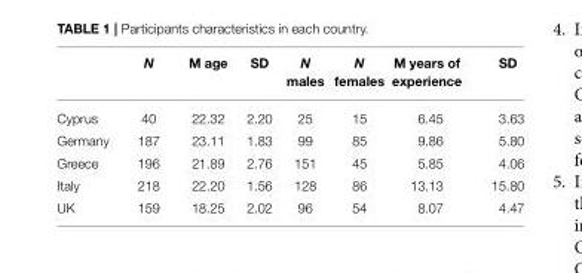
<table><thead><tr><td></td><td>N</td><td>M age</td><td>SD</td><td>N males</td><td>N females</td><td>M years of experience</td><td>SD</td></tr></thead><tbody><tr><td>Cyprus</td><td>40</td><td>22.32</td><td>2.20</td><td>25</td><td>15</td><td>6.45</td><td>3.63</td></tr><tr><td>Germany</td><td>187</td><td>23.11</td><td>1.83</td><td>99</td><td>85</td><td>9.86</td><td>5.80</td></tr><tr><td>Greece</td><td>196</td><td>21.89</td><td>2.76</td><td>151</td><td>45</td><td>5.85</td><td>4.06</td></tr><tr><td>Italy</td><td>218</td><td>22.20</td><td>1.56</td><td>128</td><td>86</td><td>13.13</td><td>15.80</td></tr><tr><td>UK</td><td>159</td><td>18.25</td><td>2.02</td><td>96</td><td>54</td><td>8.07</td><td>4.47</td></tr></tbody></table>